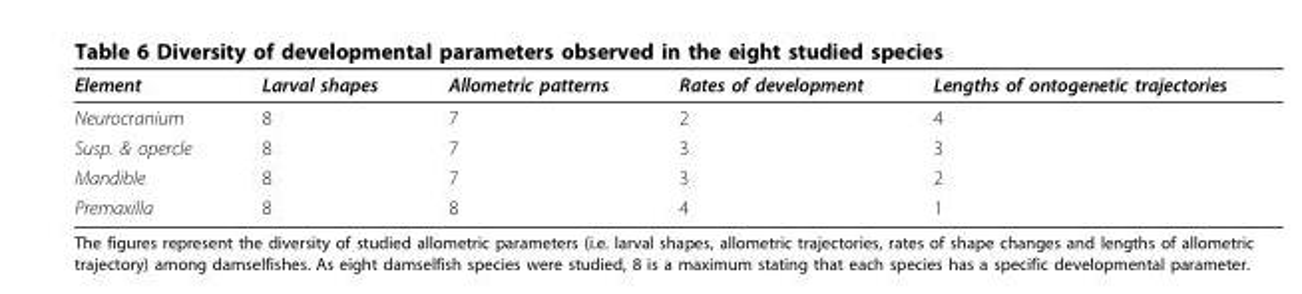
<table><thead><tr><td>Element</td><td>Larval shapes</td><td>Allometric patterns</td><td>Rates of development</td><td>Lengths of ontogenetic trajectories</td></tr></thead><tbody><tr><td>Neurocranium</td><td>8</td><td>7</td><td>2</td><td>4</td></tr><tr><td>Susp. &amp; opercle</td><td>8</td><td>7</td><td>3</td><td>3</td></tr><tr><td>Mandible</td><td>8</td><td>7</td><td>3</td><td>2</td></tr><tr><td>Premaxilla</td><td>8</td><td>8</td><td>4</td><td>1</td></tr></tbody></table>